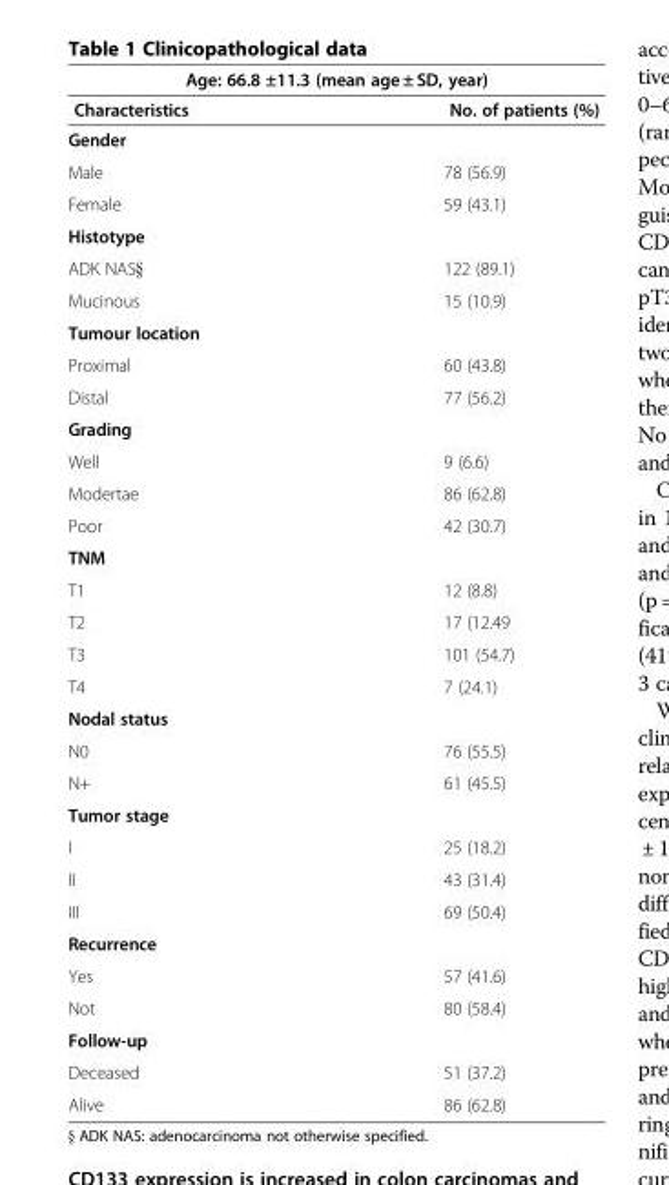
<table><thead><tr><td colspan="2">Age: 66.8 ±11.3 (mean age ± SD, year)</td></tr><tr><td>Characteristics</td><td>No. of patients (%)</td></tr></thead><tbody><tr><td colspan="2">Gender</td></tr><tr><td>Male</td><td>78 (56.9)</td></tr><tr><td>Female</td><td>59 (43.1)</td></tr><tr><td colspan="2">Histotype</td></tr><tr><td>ADK NAS§</td><td>122 (89.1)</td></tr><tr><td>Mucinous</td><td>15 (10.9)</td></tr><tr><td colspan="2">Tumour location</td></tr><tr><td>Proximal</td><td>60 (43.8)</td></tr><tr><td>Distal</td><td>77 (56.2)</td></tr><tr><td colspan="2">Grading</td></tr><tr><td>Well</td><td>9 (6.6)</td></tr><tr><td>Modertae</td><td>86 (62.8)</td></tr><tr><td>Poor</td><td>42 (30.7)</td></tr><tr><td colspan="2">TNM</td></tr><tr><td>T1</td><td>12 (8.8)</td></tr><tr><td>T2</td><td>17 (12.49</td></tr><tr><td>T3</td><td>101 (54.7)</td></tr><tr><td>T4</td><td>7 (24.1)</td></tr><tr><td colspan="2">Nodal status</td></tr><tr><td>N0</td><td>76 (55.5)</td></tr><tr><td>N+</td><td>61 (45.5)</td></tr><tr><td colspan="2">Tumor stage</td></tr><tr><td>I</td><td>25 (18.2)</td></tr><tr><td>II</td><td>43 (31.4)</td></tr><tr><td>III</td><td>69 (50.4)</td></tr><tr><td colspan="2">Recurrence</td></tr><tr><td>Yes</td><td>57 (41.6)</td></tr><tr><td>Not</td><td>80 (58.4)</td></tr><tr><td colspan="2">Follow-up</td></tr><tr><td>Deceased</td><td>51 (37.2)</td></tr><tr><td>Alive</td><td>86 (62.8)</td></tr></tbody></table>